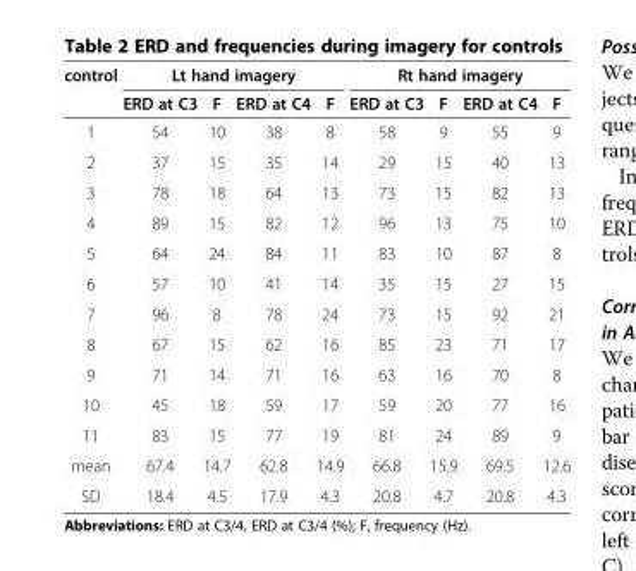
<table><thead><tr><td rowspan="2">control</td><td colspan="4">Lt hand imagery</td><td colspan="4">Rt hand imagery</td></tr><tr><td>ERD at C3</td><td>F</td><td>ERD at C4</td><td>F</td><td>ERD at C3</td><td>F</td><td>ERD at C4</td><td>F</td></tr></thead><tbody><tr><td>1</td><td>54</td><td>10</td><td>38</td><td>8</td><td>58</td><td>9</td><td>55</td><td>9</td></tr><tr><td>2</td><td>37</td><td>15</td><td>35</td><td>14</td><td>29</td><td>15</td><td>40</td><td>13</td></tr><tr><td>3</td><td>78</td><td>18</td><td>64</td><td>13</td><td>73</td><td>15</td><td>82</td><td>13</td></tr><tr><td>4</td><td>89</td><td>15</td><td>82</td><td>12</td><td>96</td><td>13</td><td>75</td><td>10</td></tr><tr><td>5</td><td>64</td><td>24</td><td>84</td><td>11</td><td>83</td><td>10</td><td>87</td><td>8</td></tr><tr><td>6</td><td>57</td><td>10</td><td>41</td><td>14</td><td>35</td><td>15</td><td>27</td><td>15</td></tr><tr><td>7</td><td>96</td><td>8</td><td>78</td><td>24</td><td>73</td><td>15</td><td>92</td><td>21</td></tr><tr><td>8</td><td>67</td><td>15</td><td>62</td><td>16</td><td>85</td><td>23</td><td>71</td><td>17</td></tr><tr><td>9</td><td>71</td><td>14</td><td>71</td><td>16</td><td>63</td><td>16</td><td>70</td><td>8</td></tr><tr><td>10</td><td>45</td><td>18</td><td>59</td><td>17</td><td>59</td><td>20</td><td>77</td><td>16</td></tr><tr><td>11</td><td>83</td><td>15</td><td>77</td><td>19</td><td>81</td><td>24</td><td>89</td><td>9</td></tr><tr><td>mean</td><td>67.4</td><td>14.7</td><td>62.8</td><td>14.9</td><td>66.8</td><td>15.9</td><td>69.5</td><td>12.6</td></tr><tr><td>SD</td><td>18.4</td><td>4.5</td><td>17.9</td><td>4.3</td><td>20.8</td><td>4.7</td><td>20.8</td><td>4.3</td></tr></tbody></table>